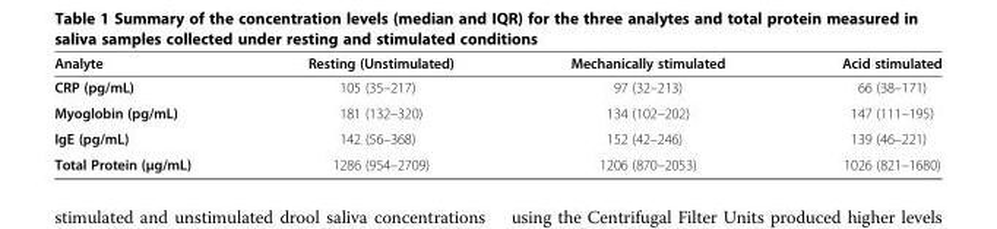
<table><thead><tr><td>Analyte</td><td>Resting (Unstimulated)</td><td>Mechanically stimulated</td><td>Acid stimulated</td></tr></thead><tbody><tr><td>CRP (pg/mL)</td><td>105 (35–217)</td><td>97 (32–213)</td><td>66 (38–171)</td></tr><tr><td>Myoglobin (pg/mL)</td><td>181 (132–320)</td><td>134 (102–202)</td><td>147 (111–195)</td></tr><tr><td>IgE (pg/mL)</td><td>142 (56–368)</td><td>152 (42–246)</td><td>139 (46–221)</td></tr><tr><td>Total Protein (μg/mL)</td><td>1286 (954–2709)</td><td>1206 (870–2053)</td><td>1026 (821–1680)</td></tr></tbody></table>